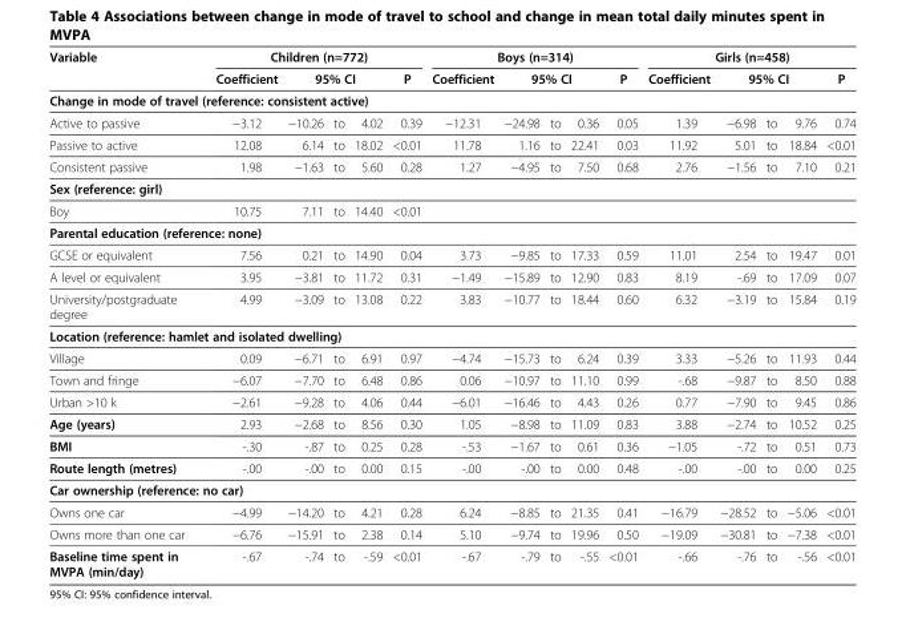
<table><thead><tr><td rowspan="2">Variable</td><td colspan="5">Children (n=772)</td><td colspan="5">Boys (n=314)</td><td colspan="5">Girls (n=458)</td></tr><tr><td>Coefficient</td><td colspan="3">95% CI</td><td>P</td><td>Coefficient</td><td colspan="3">95% CI</td><td>P</td><td>Coefficient</td><td colspan="3">95% CI</td><td>P</td></tr><tr><td colspan="16">Change in mode of travel (reference: consistent active)</td></tr><tr><td>Active to passive</td><td>−3.12</td><td>−10.26</td><td>to</td><td>4.02</td><td>0.39</td><td>−12.31</td><td>−24.98</td><td>to</td><td>0.36</td><td>0.05</td><td>1.39</td><td>−6.98</td><td>to</td><td>9.76</td><td>0.74</td></tr></thead><tbody><tr><td>Passive to active</td><td>12.08</td><td>6.14</td><td>to</td><td>18.02</td><td>&lt;0.01</td><td>11.78</td><td>1.16</td><td>to</td><td>22.41</td><td>0.03</td><td>11.92</td><td>5.01</td><td>to</td><td>18.84</td><td>&lt;0.01</td></tr><tr><td>Consistent passive</td><td>1.98</td><td>−1.63</td><td>to</td><td>5.60</td><td>0.28</td><td>1.27</td><td>−4.95</td><td>to</td><td>7.50</td><td>0.68</td><td>2.76</td><td>−1.56</td><td>to</td><td>7.10</td><td>0.21</td></tr><tr><td colspan="16">Sex (reference: girl)</td></tr><tr><td>Boy</td><td>10.75</td><td>7.11</td><td>to</td><td>14.40</td><td>&lt;0.01</td><td></td><td></td><td></td><td></td><td></td><td></td><td></td><td></td><td></td><td></td></tr><tr><td colspan="16">Parental education (reference: none)</td></tr><tr><td>GCSE or equivalent</td><td>7.56</td><td>0.21</td><td>to</td><td>14.90</td><td>0.04</td><td>3.73</td><td>−9.85</td><td>to</td><td>17.33</td><td>0.59</td><td>11.01</td><td>2.54</td><td>to</td><td>19.47</td><td>0.01</td></tr><tr><td>A level or equivalent</td><td>3.95</td><td>−3.81</td><td>to</td><td>11.72</td><td>0.31</td><td>−1.49</td><td>−15.89</td><td>to</td><td>12.90</td><td>0.83</td><td>8.19</td><td>-.69</td><td>to</td><td>17.09</td><td>0.07</td></tr><tr><td>University/postgraduate degree</td><td>4.99</td><td>−3.09</td><td>to</td><td>13.08</td><td>0.22</td><td>3.83</td><td>−10.77</td><td>to</td><td>18.44</td><td>0.60</td><td>6.32</td><td>−3.19</td><td>to</td><td>15.84</td><td>0.19</td></tr><tr><td colspan="16">Location (reference: hamlet and isolated dwelling)</td></tr><tr><td>Village</td><td>0.09</td><td>−6.71</td><td>to</td><td>6.91</td><td>0.97</td><td>−4.74</td><td>−15.73</td><td>to</td><td>6.24</td><td>0.39</td><td>3.33</td><td>−5.26</td><td>to</td><td>11.93</td><td>0.44</td></tr><tr><td>Town and fringe</td><td>−6.07</td><td>−7.70</td><td>to</td><td>6.48</td><td>0.86</td><td>0.06</td><td>−10.97</td><td>to</td><td>11.10</td><td>0.99</td><td>-.68</td><td>−9.87</td><td>to</td><td>8.50</td><td>0.88</td></tr><tr><td>Urban &gt;10 k</td><td>−2.61</td><td>−9.28</td><td>to</td><td>4.06</td><td>0.44</td><td>−6.01</td><td>−16.46</td><td>to</td><td>4.43</td><td>0.26</td><td>0.77</td><td>−7.90</td><td>to</td><td>9.45</td><td>0.86</td></tr><tr><td>Age (years)</td><td>2.93</td><td>−2.68</td><td>to</td><td>8.56</td><td>0.30</td><td>1.05</td><td>−8.98</td><td>to</td><td>11.09</td><td>0.83</td><td>3.88</td><td>−2.74</td><td>to</td><td>10.52</td><td>0.25</td></tr><tr><td>BMI</td><td>-.30</td><td>-.87</td><td>to</td><td>0.25</td><td>0.28</td><td>-.53</td><td>−1.67</td><td>to</td><td>0.61</td><td>0.36</td><td>−1.05</td><td>-.72</td><td>to</td><td>0.51</td><td>0.73</td></tr><tr><td>Route length (metres)</td><td>-.00</td><td>-.00</td><td>to</td><td>0.00</td><td>0.15</td><td>-.00</td><td>-.00</td><td>to</td><td>0.00</td><td>0.48</td><td>-.00</td><td>-.00</td><td>to</td><td>0.00</td><td>0.25</td></tr><tr><td colspan="16">Car ownership (reference: no car)</td></tr><tr><td>Owns one car</td><td>−4.99</td><td>−14.20</td><td>to</td><td>4.21</td><td>0.28</td><td>6.24</td><td>−8.85</td><td>to</td><td>21.35</td><td>0.41</td><td>−16.79</td><td>−28.52</td><td>to</td><td>−5.06</td><td>&lt;0.01</td></tr><tr><td>Owns more than one car</td><td>−6.76</td><td>−15.91</td><td>to</td><td>2.38</td><td>0.14</td><td>5.10</td><td>−9.74</td><td>to</td><td>19.96</td><td>0.50</td><td>−19.09</td><td>−30.81</td><td>to</td><td>−7.38</td><td>&lt;0.01</td></tr><tr><td>Baseline time spent in MVPA (min/day)</td><td>-.67</td><td>-.74</td><td>to</td><td>-.59</td><td>&lt;0.01</td><td>-.67</td><td>-.79</td><td>to</td><td>-.55</td><td>&lt;0.01</td><td>-.66</td><td>-.76</td><td>to</td><td>-.56</td><td>&lt;0.01</td></tr></tbody></table>